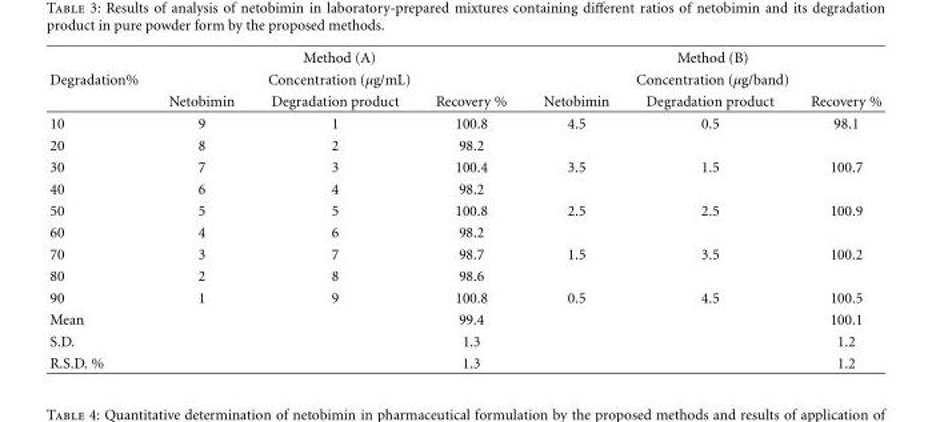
<table><thead><tr><td rowspan="3">Degradation%</td><td rowspan="2" colspan="3">Method (A) Concentration (μg/mL)</td><td rowspan="2" colspan="3">Method (B) Concentration (μg/band)</td></tr><tr></tr><tr><td>Netobimin</td><td>Degradation product</td><td>Recovery %</td><td>Netobimin</td><td>Degradation product</td><td>Recovery %</td></tr></thead><tbody><tr><td>10</td><td>9</td><td>1</td><td>100.8</td><td>4.5</td><td>0.5</td><td>98.1</td></tr><tr><td>20</td><td>8</td><td>2</td><td>98.2</td><td></td><td></td><td></td></tr><tr><td>30</td><td>7</td><td>3</td><td>100.4</td><td>3.5</td><td>1.5</td><td>100.7</td></tr><tr><td>40</td><td>6</td><td>4</td><td>98.2</td><td></td><td></td><td></td></tr><tr><td>50</td><td>5</td><td>5</td><td>100.8</td><td>2.5</td><td>2.5</td><td>100.9</td></tr><tr><td>60</td><td>4</td><td>6</td><td>98.2</td><td></td><td></td><td></td></tr><tr><td>70</td><td>3</td><td>7</td><td>98.7</td><td>1.5</td><td>3.5</td><td>100.2</td></tr><tr><td>80</td><td>2</td><td>8</td><td>98.6</td><td></td><td></td><td></td></tr><tr><td>90</td><td>1</td><td>9</td><td>100.8</td><td>0.5</td><td>4.5</td><td>100.5</td></tr><tr><td>Mean</td><td></td><td></td><td>99.4</td><td></td><td></td><td>100.1</td></tr><tr><td>S.D.</td><td></td><td></td><td>1.3</td><td></td><td></td><td>1.2</td></tr><tr><td>R.S.D. %</td><td></td><td></td><td>1.3</td><td></td><td></td><td>1.2</td></tr></tbody></table>